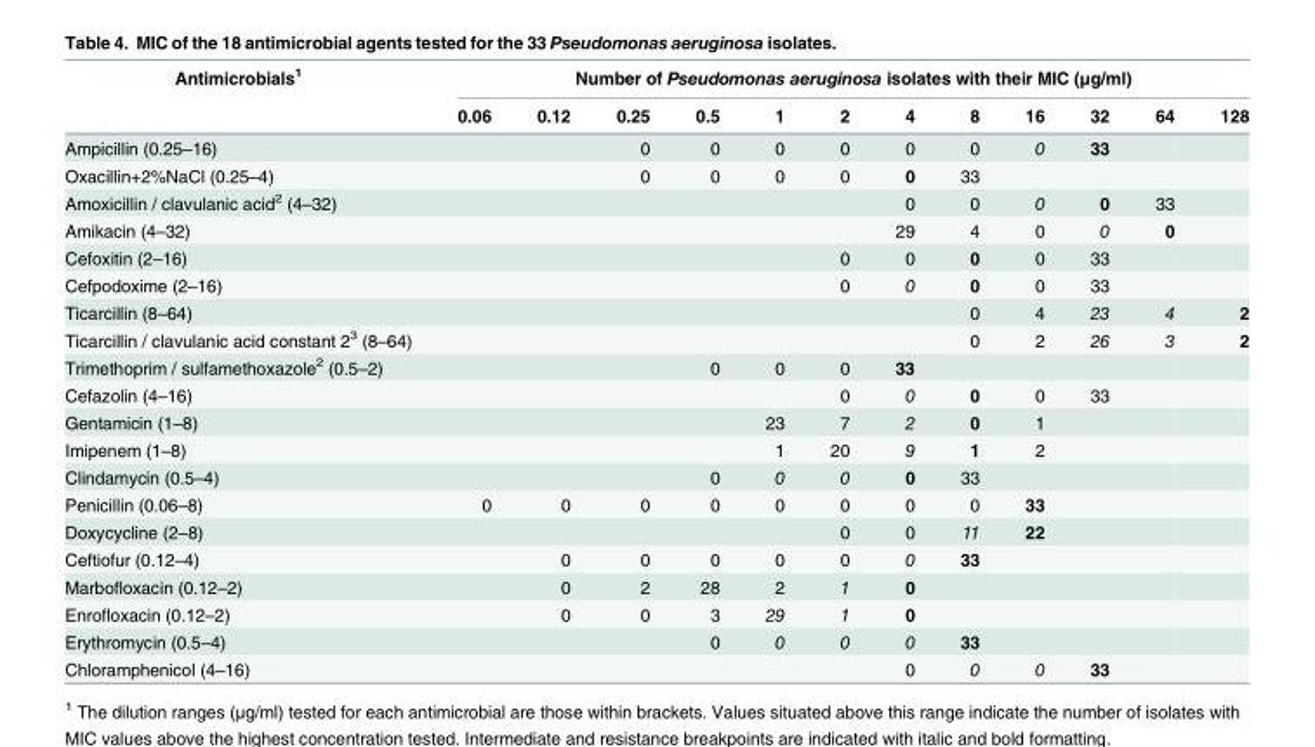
<table><thead><tr><td rowspan="2">Antimicrobials<sup>1</sup></td><td colspan="12">Number of Pseudomonas aeruginosa isolates with their MIC (μg/ml)</td></tr><tr><td>0.06</td><td>0.12</td><td>0.25</td><td>0.5</td><td>1</td><td>2</td><td>4</td><td>8</td><td>16</td><td>32</td><td>64</td><td>128</td></tr></thead><tbody><tr><td>Ampicillin (0.25–16)</td><td></td><td></td><td>0</td><td>0</td><td>0</td><td>0</td><td>0</td><td>0</td><td>0</td><td>33</td><td></td><td></td></tr><tr><td>Oxacillin+2%NaCl (0.25–4)</td><td></td><td></td><td>0</td><td>0</td><td>0</td><td>0</td><td>0</td><td>33</td><td></td><td></td><td></td><td></td></tr><tr><td>Amoxicillin / clavulanic acid<sup>2</sup> (4–32)</td><td></td><td></td><td></td><td></td><td></td><td></td><td>0</td><td>0</td><td>0</td><td>0</td><td>33</td><td></td></tr><tr><td>Amikacin (4–32)</td><td></td><td></td><td></td><td></td><td></td><td></td><td>29</td><td>4</td><td>0</td><td>0</td><td>0</td><td></td></tr><tr><td>Cefoxitin (2–16)</td><td></td><td></td><td></td><td></td><td></td><td>0</td><td>0</td><td>0</td><td>0</td><td>33</td><td></td><td></td></tr><tr><td>Cefpodoxime (2–16)</td><td></td><td></td><td></td><td></td><td></td><td>0</td><td>0</td><td>0</td><td>0</td><td>33</td><td></td><td></td></tr><tr><td>Ticarcillin (8–64)</td><td></td><td></td><td></td><td></td><td></td><td></td><td></td><td>0</td><td>4</td><td>23</td><td>4</td><td>2</td></tr><tr><td>Ticarcillin / clavulanic acid constant 2<sup>3</sup> (8–64)</td><td></td><td></td><td></td><td></td><td></td><td></td><td></td><td>0</td><td>2</td><td>26</td><td>3</td><td>2</td></tr><tr><td>Trimethoprim / sulfamethoxazole<sup>2</sup> (0.5–2)</td><td></td><td></td><td></td><td>0</td><td>0</td><td>0</td><td>33</td><td></td><td></td><td></td><td></td><td></td></tr><tr><td>Cefazolin (4–16)</td><td></td><td></td><td></td><td></td><td></td><td>0</td><td>0</td><td>0</td><td>0</td><td>33</td><td></td><td></td></tr><tr><td>Gentamicin (1–8)</td><td></td><td></td><td></td><td></td><td>23</td><td>7</td><td>2</td><td>0</td><td>1</td><td></td><td></td><td></td></tr><tr><td>Imipenem (1–8)</td><td></td><td></td><td></td><td></td><td>1</td><td>20</td><td>9</td><td>1</td><td>2</td><td></td><td></td><td></td></tr><tr><td>Clindamycin (0.5–4)</td><td></td><td></td><td></td><td>0</td><td>0</td><td>0</td><td>0</td><td>33</td><td></td><td></td><td></td><td></td></tr><tr><td>Penicillin (0.06–8)</td><td>0</td><td>0</td><td>0</td><td>0</td><td>0</td><td>0</td><td>0</td><td>0</td><td>33</td><td></td><td></td><td></td></tr><tr><td>Doxycycline (2–8)</td><td></td><td></td><td></td><td></td><td></td><td>0</td><td>0</td><td>11</td><td>22</td><td></td><td></td><td></td></tr><tr><td>Ceftiofur (0.12–4)</td><td></td><td>0</td><td>0</td><td>0</td><td>0</td><td>0</td><td>0</td><td>33</td><td></td><td></td><td></td><td></td></tr><tr><td>Marbofloxacin (0.12–2)</td><td></td><td>0</td><td>2</td><td>28</td><td>2</td><td>1</td><td>0</td><td></td><td></td><td></td><td></td><td></td></tr><tr><td>Enrofloxacin (0.12–2)</td><td></td><td>0</td><td>0</td><td>3</td><td>29</td><td>1</td><td>0</td><td></td><td></td><td></td><td></td><td></td></tr><tr><td>Erythromycin (0.5–4)</td><td></td><td></td><td></td><td>0</td><td>0</td><td>0</td><td>0</td><td>33</td><td></td><td></td><td></td><td></td></tr><tr><td>Chloramphenicol (4–16)</td><td></td><td></td><td></td><td></td><td></td><td></td><td>0</td><td>0</td><td>0</td><td>33</td><td></td><td></td></tr></tbody></table>